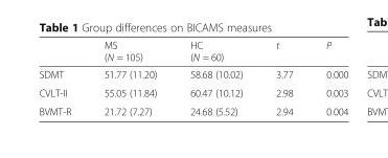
<table><thead><tr><td></td><td>MS (N = 105)</td><td>HC (N = 60)</td><td>t</td><td>P</td></tr></thead><tbody><tr><td>SDMT</td><td>51.77 (11.20)</td><td>58.68 (10.02)</td><td>3.77</td><td>0.000</td></tr><tr><td>CVLT-II</td><td>55.05 (11.84)</td><td>60.47 (10.12)</td><td>2.98</td><td>0.003</td></tr><tr><td>BVMT-R</td><td>21.72 (7.27)</td><td>24.68 (5.52)</td><td>2.94</td><td>0.004</td></tr></tbody></table>